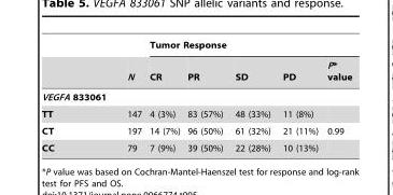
<table><thead><tr><td rowspan="2"></td><td rowspan="2">N</td><td colspan="5">Tumor Response</td></tr><tr><td>CR</td><td>PR</td><td>SD</td><td>PD</td><td>P* value</td></tr></thead><tbody><tr><td colspan="7">VEGFA 833061</td></tr><tr><td>TT</td><td>147</td><td>4 (3%)</td><td>83 (57%)</td><td>48 (33%)</td><td>11 (8%)</td><td></td></tr><tr><td>CT</td><td>197</td><td>14 (7%)</td><td>96 (50%)</td><td>61 (32%)</td><td>21 (11%)</td><td>0.99</td></tr><tr><td>CC</td><td>79</td><td>7 (9%)</td><td>39 (50%)</td><td>22 (28%)</td><td>10 (13%)</td><td></td></tr></tbody></table>